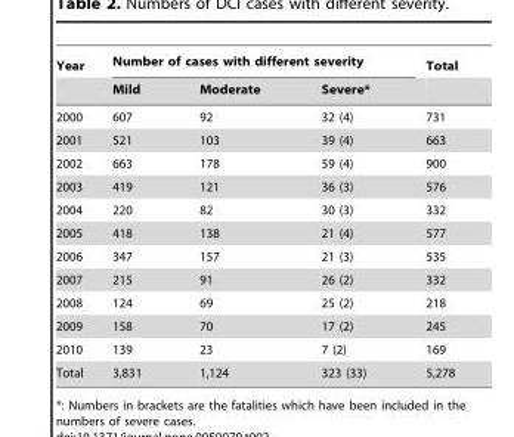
<table><thead><tr><td rowspan="2">Year</td><td colspan="3">Number of cases with different severity</td><td rowspan="2">Total</td></tr><tr><td>Mild</td><td>Moderate</td><td>Severe*</td></tr></thead><tbody><tr><td>2000</td><td>607</td><td>92</td><td>32 (4)</td><td>731</td></tr><tr><td>2001</td><td>521</td><td>103</td><td>39 (4)</td><td>663</td></tr><tr><td>2002</td><td>663</td><td>178</td><td>59 (4)</td><td>900</td></tr><tr><td>2003</td><td>419</td><td>121</td><td>36 (3)</td><td>576</td></tr><tr><td>2004</td><td>220</td><td>82</td><td>30 (3)</td><td>332</td></tr><tr><td>2005</td><td>418</td><td>138</td><td>21 (4)</td><td>577</td></tr><tr><td>2006</td><td>347</td><td>157</td><td>21 (3)</td><td>535</td></tr><tr><td>2007</td><td>215</td><td>91</td><td>26 (2)</td><td>332</td></tr><tr><td>2008</td><td>124</td><td>69</td><td>25 (2)</td><td>218</td></tr><tr><td>2009</td><td>158</td><td>70</td><td>17 (2)</td><td>245</td></tr><tr><td>2010</td><td>139</td><td>23</td><td>7 (2)</td><td>169</td></tr><tr><td>Total</td><td>3,831</td><td>1,124</td><td>323 (33)</td><td>5,278</td></tr></tbody></table>